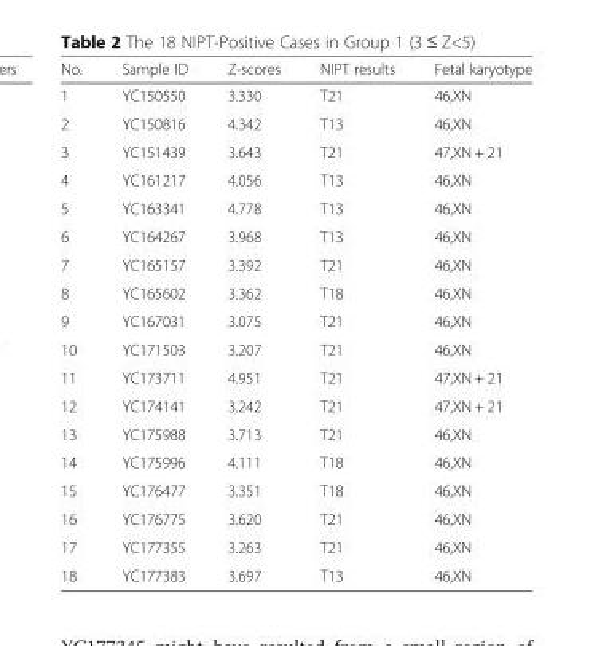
<table><thead><tr><td>No.</td><td>Sample ID</td><td>Z-scores</td><td>NIPT results</td><td>Fetal karyotype</td></tr></thead><tbody><tr><td>1</td><td>YC150550</td><td>3.330</td><td>T21</td><td>46,XN</td></tr><tr><td>2</td><td>YC150816</td><td>4.342</td><td>T13</td><td>46,XN</td></tr><tr><td>3</td><td>YC151439</td><td>3.643</td><td>T21</td><td>47,XN + 21</td></tr><tr><td>4</td><td>YC161217</td><td>4.056</td><td>T13</td><td>46,XN</td></tr><tr><td>5</td><td>YC163341</td><td>4.778</td><td>T13</td><td>46,XN</td></tr><tr><td>6</td><td>YC164267</td><td>3.968</td><td>T13</td><td>46,XN</td></tr><tr><td>7</td><td>YC165157</td><td>3.392</td><td>T21</td><td>46,XN</td></tr><tr><td>8</td><td>YC165602</td><td>3.362</td><td>T18</td><td>46,XN</td></tr><tr><td>9</td><td>YC167031</td><td>3.075</td><td>T21</td><td>46,XN</td></tr><tr><td>10</td><td>YC171503</td><td>3.207</td><td>T21</td><td>46,XN</td></tr><tr><td>11</td><td>YC173711</td><td>4.951</td><td>T21</td><td>47,XN + 21</td></tr><tr><td>12</td><td>YC174141</td><td>3.242</td><td>T21</td><td>47,XN + 21</td></tr><tr><td>13</td><td>YC175988</td><td>3.713</td><td>T21</td><td>46,XN</td></tr><tr><td>14</td><td>YC175996</td><td>4.111</td><td>T18</td><td>46,XN</td></tr><tr><td>15</td><td>YC176477</td><td>3.351</td><td>T18</td><td>46,XN</td></tr><tr><td>16</td><td>YC176775</td><td>3.620</td><td>T21</td><td>46,XN</td></tr><tr><td>17</td><td>YC177355</td><td>3.263</td><td>T21</td><td>46,XN</td></tr><tr><td>18</td><td>YC177383</td><td>3.697</td><td>T13</td><td>46,XN</td></tr></tbody></table>